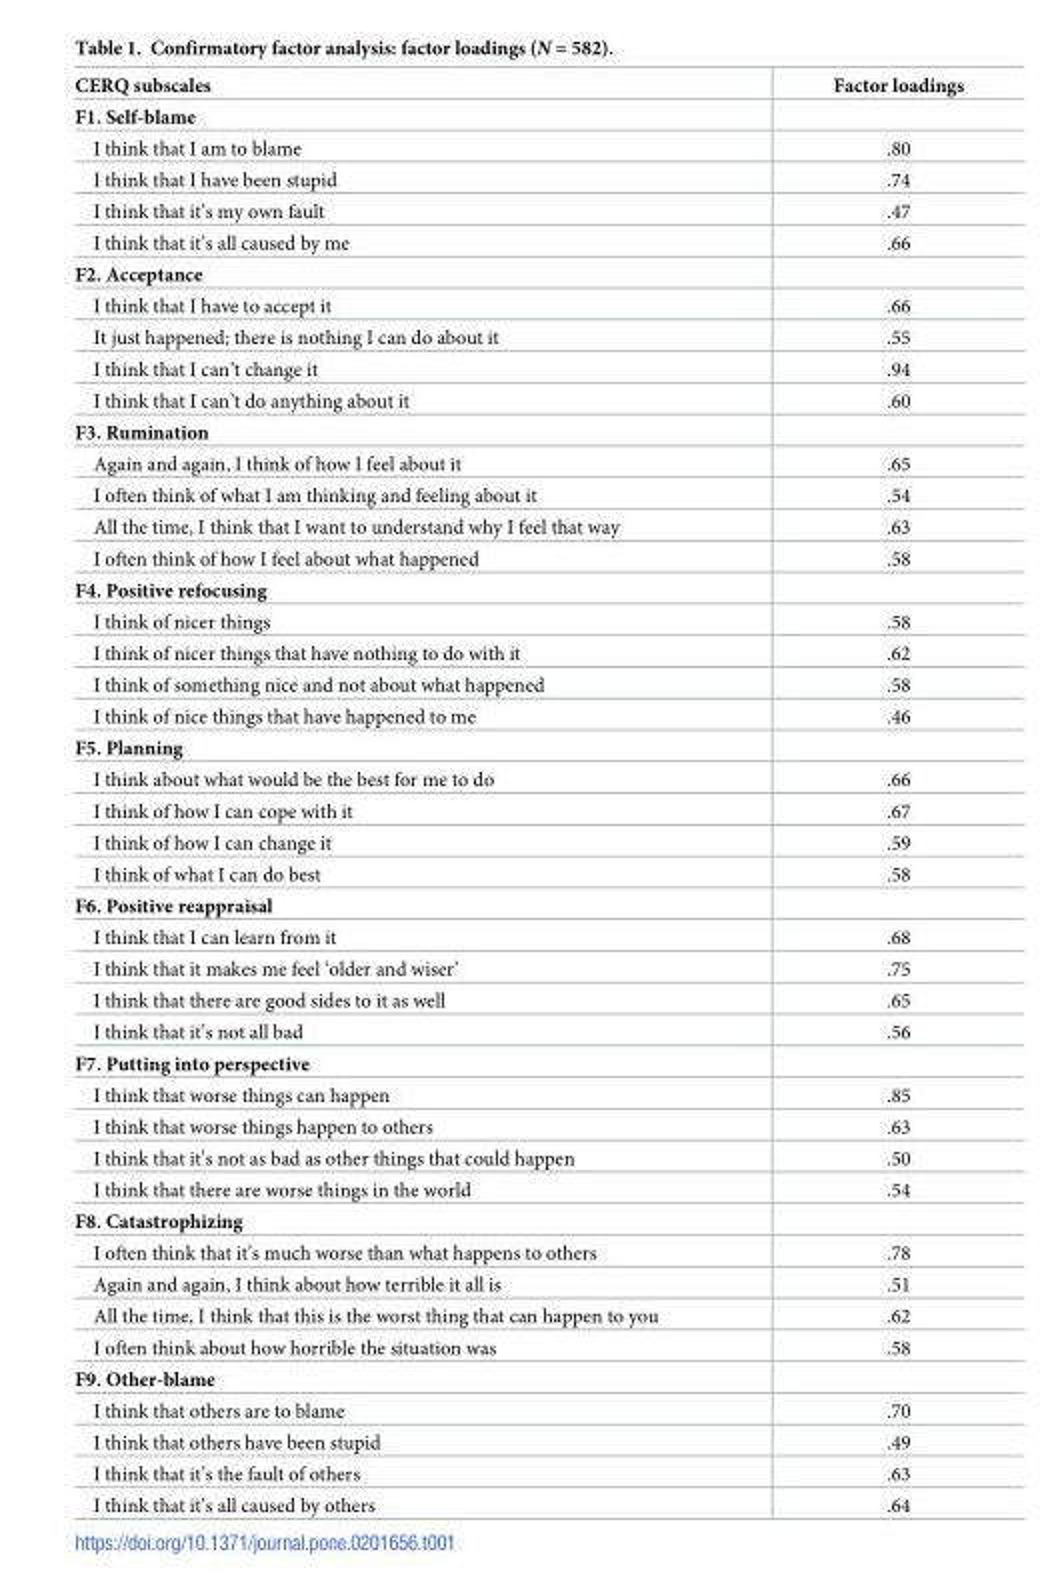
<table><thead><tr><td>CERQ subscales</td><td>Factor loadings</td></tr></thead><tbody><tr><td colspan="2">F1. Self-blame</td></tr><tr><td>I think that I am to blame</td><td>.80</td></tr><tr><td>I think that I have been stupid</td><td>.74</td></tr><tr><td>I think that it’s my own fault</td><td>.47</td></tr><tr><td>I think that it’s all caused by me</td><td>.66</td></tr><tr><td colspan="2">F2. Acceptance</td></tr><tr><td>I think that I have to accept it</td><td>.66</td></tr><tr><td>It just happened; there is nothing I can do about it</td><td>.55</td></tr><tr><td>I think that I can’t change it</td><td>.94</td></tr><tr><td>I think that I can’t do anything about it</td><td>.60</td></tr><tr><td colspan="2">F3. Rumination</td></tr><tr><td>Again and again, I think of how I feel about it</td><td>.65</td></tr><tr><td>I often think of what I am thinking and feeling about it</td><td>.54</td></tr><tr><td>All the time, I think that I want to understand why I feel that way</td><td>.63</td></tr><tr><td>I often think of how I feel about what happened</td><td>.58</td></tr><tr><td colspan="2">F4. Positive refocusing</td></tr><tr><td>I think of nicer things</td><td>.58</td></tr><tr><td>I think of nicer things that have nothing to do with it</td><td>.62</td></tr><tr><td>I think of something nice and not about what happened</td><td>.58</td></tr><tr><td>I think of nice things that have happened to me</td><td>.46</td></tr><tr><td colspan="2">F5. Planning</td></tr><tr><td>I think about what would be the best for me to do</td><td>.66</td></tr><tr><td>I think of how I can cope with it</td><td>.67</td></tr><tr><td>I think of how I can change it</td><td>.59</td></tr><tr><td>I think of what I can do best</td><td>.58</td></tr><tr><td colspan="2">F6. Positive reappraisal</td></tr><tr><td>I think that I can learn from it</td><td>.68</td></tr><tr><td>I think that it makes me feel ‘older and wiser’</td><td>.75</td></tr><tr><td>I think that there are good sides to it as well</td><td>.65</td></tr><tr><td>I think that it’s not all bad</td><td>.56</td></tr><tr><td colspan="2">F7. Putting into perspective</td></tr><tr><td>I think that worse things can happen</td><td>.85</td></tr><tr><td>I think that worse things happen to others</td><td>.63</td></tr><tr><td>I think that it’s not as bad as other things that could happen</td><td>.50</td></tr><tr><td>I think that there are worse things in the world</td><td>.54</td></tr><tr><td colspan="2">F8. Catastrophizing</td></tr><tr><td>I often think that it’s much worse than what happens to others</td><td>.78</td></tr><tr><td>Again and again, I think about how terrible it all is</td><td>.51</td></tr><tr><td>All the time, I think that this is the worst thing that can happen to you</td><td>.62</td></tr><tr><td>I often think about how horrible the situation was</td><td>.58</td></tr><tr><td colspan="2">F9. Other-blame</td></tr><tr><td>I think that others are to blame</td><td>.70</td></tr><tr><td>I think that others have been stupid</td><td>.49</td></tr><tr><td>I think that it’s the fault of others</td><td>.63</td></tr><tr><td>I think that it’s all caused by others</td><td>.64</td></tr></tbody></table>